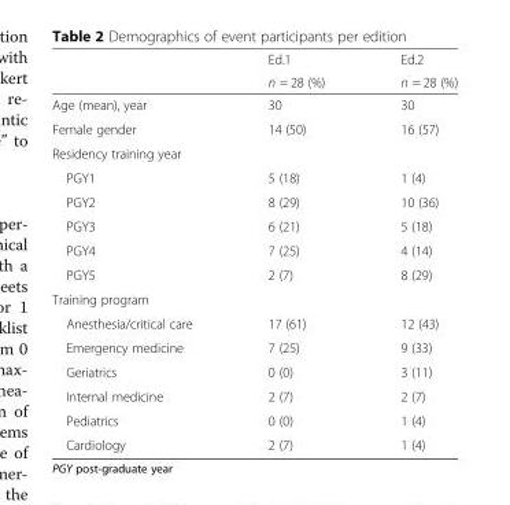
<table><thead><tr><td rowspan="2"></td><td rowspan="2">Ed.1 n = 28 (%)</td><td rowspan="2">Ed.2 n = 28 (%)</td></tr><tr></tr></thead><tbody><tr><td>Age (mean), year</td><td>30</td><td>30</td></tr><tr><td>Female gender</td><td>14 (50)</td><td>16 (57)</td></tr><tr><td colspan="3">Residency training year</td></tr><tr><td>PGY1</td><td>5 (18)</td><td>1 (4)</td></tr><tr><td>PGY2</td><td>8 (29)</td><td>10 (36)</td></tr><tr><td>PGY3</td><td>6 (21)</td><td>5 (18)</td></tr><tr><td>PGY4</td><td>7 (25)</td><td>4 (14)</td></tr><tr><td>PGY5</td><td>2 (7)</td><td>8 (29)</td></tr><tr><td colspan="3">Training program</td></tr><tr><td>Anesthesia/critical care</td><td>17 (61)</td><td>12 (43)</td></tr><tr><td>Emergency medicine</td><td>7 (25)</td><td>9 (33)</td></tr><tr><td>Geriatrics</td><td>0 (0)</td><td>3 (11)</td></tr><tr><td>Internal medicine</td><td>2 (7)</td><td>2 (7)</td></tr><tr><td>Pediatrics</td><td>0 (0)</td><td>1 (4)</td></tr><tr><td>Cardiology</td><td>2 (7)</td><td>1 (4)</td></tr></tbody></table>